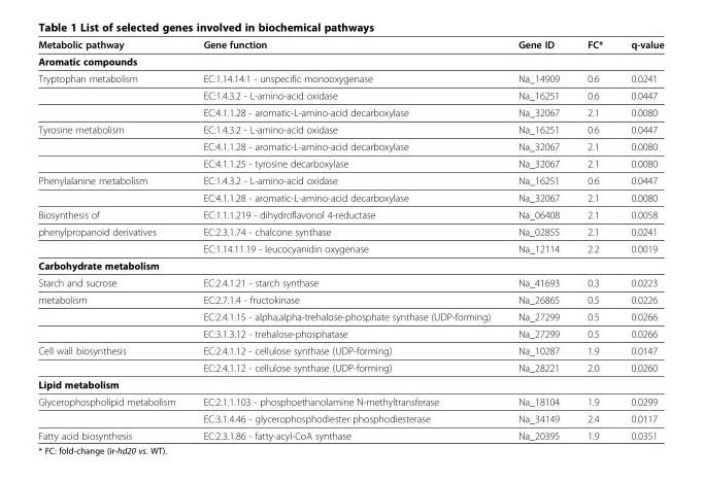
<table><thead><tr><td>Metabolic pathway</td><td>Gene function</td><td>Gene ID</td><td>FC*</td><td>q-value</td></tr></thead><tbody><tr><td colspan="5">Aromatic compounds</td></tr><tr><td rowspan="3">Tryptophan metabolism</td><td>EC:1.14.14.1 - unspecific monooxygenase</td><td>Na_14909</td><td>0.6</td><td>0.0241</td></tr><tr><td>EC:1.4.3.2 - L-amino-acid oxidase</td><td>Na_16251</td><td>0.6</td><td>0.0447</td></tr><tr><td>EC:4.1.1.28 - aromatic-L-amino-acid decarboxylase</td><td>Na_32067</td><td>2.1</td><td>0.0080</td></tr><tr><td rowspan="3">Tyrosine metabolism</td><td>EC:1.4.3.2 - L-amino-acid oxidase</td><td>Na_16251</td><td>0.6</td><td>0.0447</td></tr><tr><td>EC:4.1.1.28 - aromatic-L-amino-acid decarboxylase</td><td>Na_32067</td><td>2.1</td><td>0.0080</td></tr><tr><td>EC:4.1.1.25 - tyrosine decarboxylase</td><td>Na_32067</td><td>2.1</td><td>0.0080</td></tr><tr><td rowspan="2">Phenylalanine metabolism</td><td>EC:1.4.3.2 - L-amino-acid oxidase</td><td>Na_16251</td><td>0.6</td><td>0.0447</td></tr><tr><td>EC:4.1.1.28 - aromatic-L-amino-acid decarboxylase</td><td>Na_32067</td><td>2.1</td><td>0.0080</td></tr><tr><td>Biosynthesis of</td><td>EC:1.1.1.219 - dihydroflavonol 4-reductase</td><td>Na_06408</td><td>2.1</td><td>0.0058</td></tr><tr><td rowspan="2">phenylpropanoid derivatives</td><td>EC:2.3.1.74 - chalcone synthase</td><td>Na_02855</td><td>2.1</td><td>0.0241</td></tr><tr><td>EC:1.14.11.19 - leucocyanidin oxygenase</td><td>Na_12114</td><td>2.2</td><td>0.0019</td></tr><tr><td colspan="5">Carbohydrate metabolism</td></tr><tr><td>Starch and sucrose</td><td>EC:2.4.1.21 - starch synthase</td><td>Na_41693</td><td>0.3</td><td>0.0223</td></tr><tr><td rowspan="3">metabolism</td><td>EC:2.7.1.4 - fructokinase</td><td>Na_26865</td><td>0.5</td><td>0.0226</td></tr><tr><td>EC:2.4.1.15 - alpha,alpha-trehalose-phosphate synthase (UDP-forming)</td><td>Na_27299</td><td>0.5</td><td>0.0266</td></tr><tr><td>EC:3.1.3.12 - trehalose-phosphatase</td><td>Na_27299</td><td>0.5</td><td>0.0266</td></tr><tr><td rowspan="2">Cell wall biosynthesis</td><td>EC:2.4.1.12 - cellulose synthase (UDP-forming)</td><td>Na_10287</td><td>1.9</td><td>0.0147</td></tr><tr><td>EC:2.4.1.12 - cellulose synthase (UDP-forming)</td><td>Na_28221</td><td>2.0</td><td>0.0260</td></tr><tr><td colspan="5">Lipid metabolism</td></tr><tr><td rowspan="2">Glycerophospholipid metabolism</td><td>EC:2.1.1.103 - phosphoethanolamine N-methyltransferase</td><td>Na_18104</td><td>1.9</td><td>0.0299</td></tr><tr><td>EC:3.1.4.46 - glycerophosphodiester phosphodiesterase</td><td>Na_34149</td><td>2.4</td><td>0.0117</td></tr><tr><td>Fatty acid biosynthesis</td><td>EC:2.3.1.86 - fatty-acyl-CoA synthase</td><td>Na_20395</td><td>1.9</td><td>0.0351</td></tr></tbody></table>